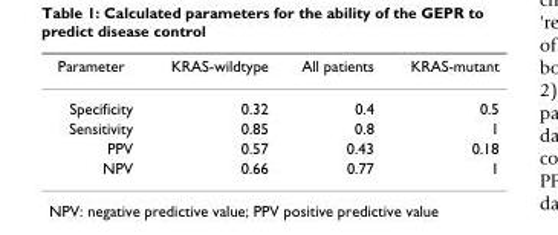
<table><thead><tr><td>Parameter</td><td>KRAS-wildtype</td><td>All patients</td><td>KRAS-mutant</td></tr></thead><tbody><tr><td>Specificity</td><td>0.32</td><td>0.4</td><td>0.5</td></tr><tr><td>Sensitivity</td><td>0.85</td><td>0.8</td><td>1</td></tr><tr><td>PPV</td><td>0.57</td><td>0.43</td><td>0.18</td></tr><tr><td>NPV</td><td>0.66</td><td>0.77</td><td>1</td></tr></tbody></table>